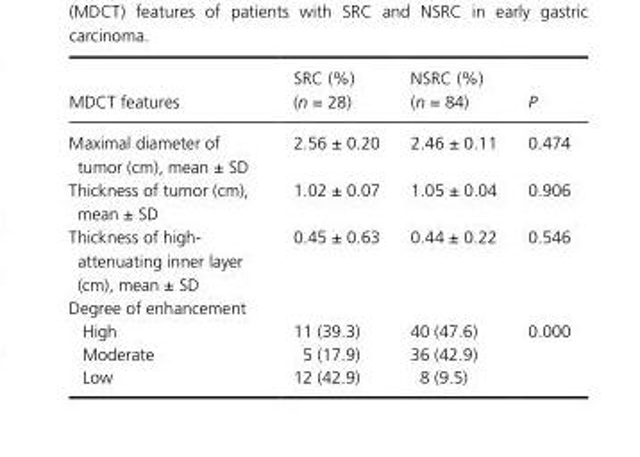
<table><thead><tr><td>MDCT features</td><td>SRC (%) (n = 28)</td><td>NSRC (%) (n = 84)</td><td>P</td></tr></thead><tbody><tr><td>Maximal diameter of tumor (cm), mean ± SD</td><td>2.56 ± 0.20</td><td>2.46 ± 0.11</td><td>0.474</td></tr><tr><td>Thickness of tumor (cm), mean ± SD</td><td>1.02 ± 0.07</td><td>1.05 ± 0.04</td><td>0.906</td></tr><tr><td>Thickness of high- attenuating inner layer (cm), mean ± SD</td><td>0.45 ± 0.63</td><td>0.44 ± 0.22</td><td>0.546</td></tr><tr><td colspan="4">Degree of enhancement</td></tr><tr><td>High</td><td>11 (39.3)</td><td>40 (47.6)</td><td rowspan="3">0.000</td></tr><tr><td>Moderate</td><td>5 (17.9)</td><td>36 (42.9)</td></tr><tr><td>Low</td><td>12 (42.9)</td><td>8 (9.5)</td></tr></tbody></table>